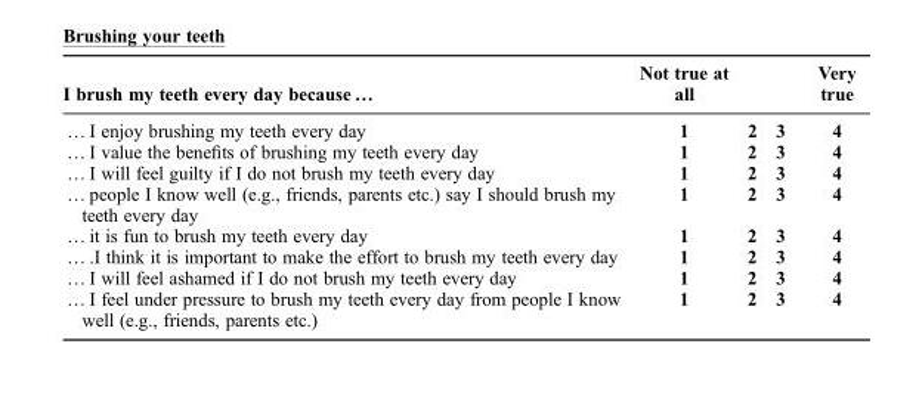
<table><thead><tr><td>I brush my teeth every day because …</td><td>Not true at all</td><td></td><td></td><td>Very true</td></tr></thead><tbody><tr><td>… I enjoy brushing my teeth every day</td><td>1</td><td>2</td><td>3</td><td>4</td></tr><tr><td>… I value the benefits of brushing my teeth every day</td><td>1</td><td>2</td><td>3</td><td>4</td></tr><tr><td>… I will feel guilty if I do not brush my teeth every day</td><td>1</td><td>2</td><td>3</td><td>4</td></tr><tr><td>… people I know well (e.g., friends, parents etc.) say I should brush my teeth every day</td><td>1</td><td>2</td><td>3</td><td>4</td></tr><tr><td>… it is fun to brush my teeth every day</td><td>1</td><td>2</td><td>3</td><td>4</td></tr><tr><td>… .I think it is important to make the effort to brush my teeth every day</td><td>1</td><td>2</td><td>3</td><td>4</td></tr><tr><td>… I will feel ashamed if I do not brush my teeth every day</td><td>1</td><td>2</td><td>3</td><td>4</td></tr><tr><td>… I feel under pressure to brush my teeth every day from people I know well (e.g., friends, parents etc.)</td><td>1</td><td>2</td><td>3</td><td>4</td></tr></tbody></table>